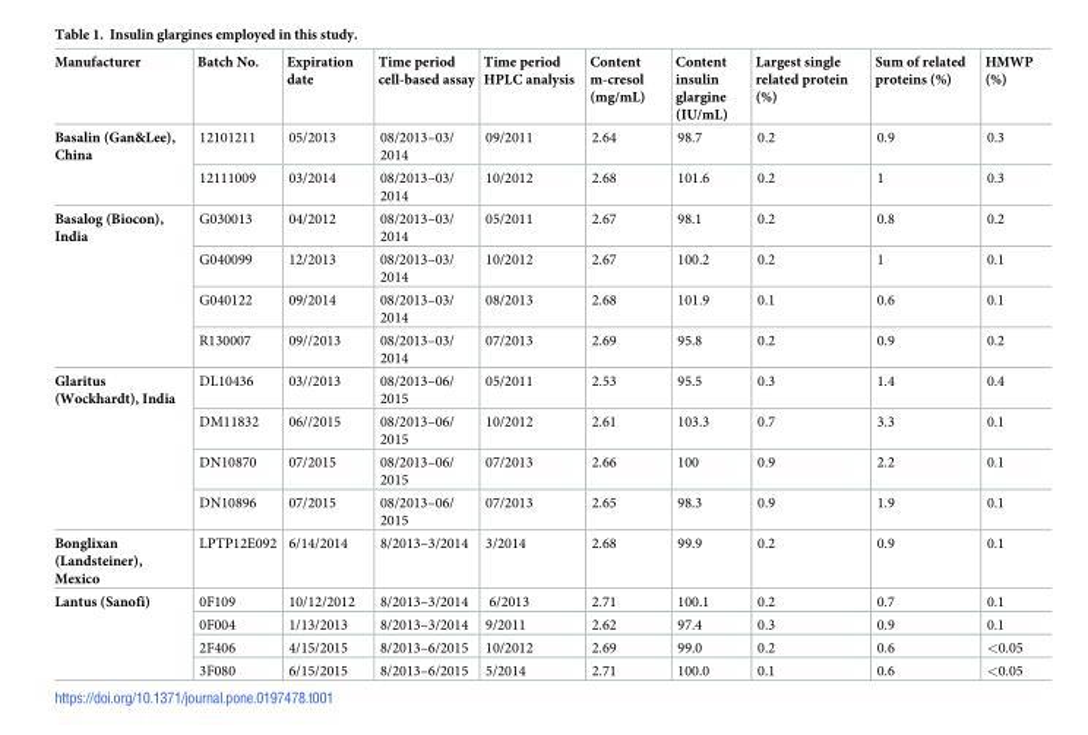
<table><thead><tr><td>Manufacturer</td><td>Batch No.</td><td>Expiration date</td><td>Time period cell-based assay</td><td>Time period HPLC analysis</td><td>Content m-cresol (mg/mL)</td><td>Content insulin glargine (IU/mL)</td><td>Largest single related protein (%)</td><td>Sum of related proteins (%)</td><td>HMWP (%)</td></tr></thead><tbody><tr><td rowspan="2">Basalin (Gan&amp;Lee), China</td><td>12101211</td><td>05/2013</td><td>08/2013–03/ 2014</td><td>09/2011</td><td>2.64</td><td>98.7</td><td>0.2</td><td>0.9</td><td>0.3</td></tr><tr><td>12111009</td><td>03/2014</td><td>08/2013–03/ 2014</td><td>10/2012</td><td>2.68</td><td>101.6</td><td>0.2</td><td>1</td><td>0.3</td></tr><tr><td rowspan="4">Basalog (Biocon), India</td><td>G030013</td><td>04/2012</td><td>08/2013–03/ 2014</td><td>05/2011</td><td>2.67</td><td>98.1</td><td>0.2</td><td>0.8</td><td>0.2</td></tr><tr><td>G040099</td><td>12/2013</td><td>08/2013–03/ 2014</td><td>10/2012</td><td>2.67</td><td>100.2</td><td>0.2</td><td>1</td><td>0.1</td></tr><tr><td>G040122</td><td>09/2014</td><td>08/2013–03/ 2014</td><td>08/2013</td><td>2.68</td><td>101.9</td><td>0.1</td><td>0.6</td><td>0.1</td></tr><tr><td>R130007</td><td>09//2013</td><td>08/2013–03/ 2014</td><td>07/2013</td><td>2.69</td><td>95.8</td><td>0.2</td><td>0.9</td><td>0.2</td></tr><tr><td rowspan="4">Glaritus (Wockhardt), India</td><td>DL10436</td><td>03//2013</td><td>08/2013–06/ 2015</td><td>05/2011</td><td>2.53</td><td>95.5</td><td>0.3</td><td>1.4</td><td>0.4</td></tr><tr><td>DM11832</td><td>06//2015</td><td>08/2013–06/ 2015</td><td>10/2012</td><td>2.61</td><td>103.3</td><td>0.7</td><td>3.3</td><td>0.1</td></tr><tr><td>DN10870</td><td>07/2015</td><td>08/2013–06/ 2015</td><td>07/2013</td><td>2.66</td><td>100</td><td>0.9</td><td>2.2</td><td>0.1</td></tr><tr><td>DN10896</td><td>07/2015</td><td>08/2013–06/ 2015</td><td>07/2013</td><td>2.65</td><td>98.3</td><td>0.9</td><td>1.9</td><td>0.1</td></tr><tr><td>Bonglixan (Landsteiner), Mexico</td><td>LPTP12E092</td><td>6/14/2014</td><td>8/2013–3/2014</td><td>3/2014</td><td>2.68</td><td>99.9</td><td>0.2</td><td>0.9</td><td>0.1</td></tr><tr><td rowspan="4">Lantus (Sanofi)</td><td>0F109</td><td>10/12/2012</td><td>8/2013–3/2014</td><td>6/2013</td><td>2.71</td><td>100.1</td><td>0.2</td><td>0.7</td><td>0.1</td></tr><tr><td>0F004</td><td>1/13/2013</td><td>8/2013–3/2014</td><td>9/2011</td><td>2.62</td><td>97.4</td><td>0.3</td><td>0.9</td><td>0.1</td></tr><tr><td>2F406</td><td>4/15/2015</td><td>8/2013–6/2015</td><td>10/2012</td><td>2.69</td><td>99.0</td><td>0.2</td><td>0.6</td><td>&lt;0.05</td></tr><tr><td>3F080</td><td>6/15/2015</td><td>8/2013–6/2015</td><td>5/2014</td><td>2.71</td><td>100.0</td><td>0.1</td><td>0.6</td><td>&lt;0.05</td></tr></tbody></table>